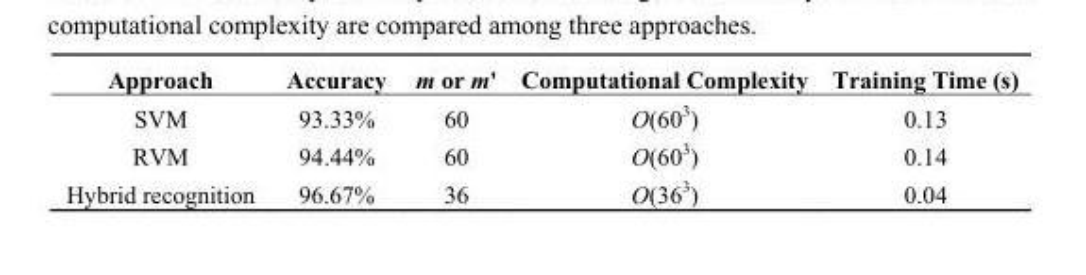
<table><thead><tr><td>Approach</td><td>Accuracy</td><td>m or m&#x27;</td><td>Computational Complexity</td><td>Training Time (s)</td></tr></thead><tbody><tr><td>SVM</td><td>93.33%</td><td>60</td><td>O(60<sup>3</sup>)</td><td>0.13</td></tr><tr><td>RVM</td><td>94.44%</td><td>60</td><td>O(60<sup>3</sup>)</td><td>0.14</td></tr><tr><td>Hybrid recognition</td><td>96.67%</td><td>36</td><td>O(36<sup>3</sup>)</td><td>0.04</td></tr></tbody></table>